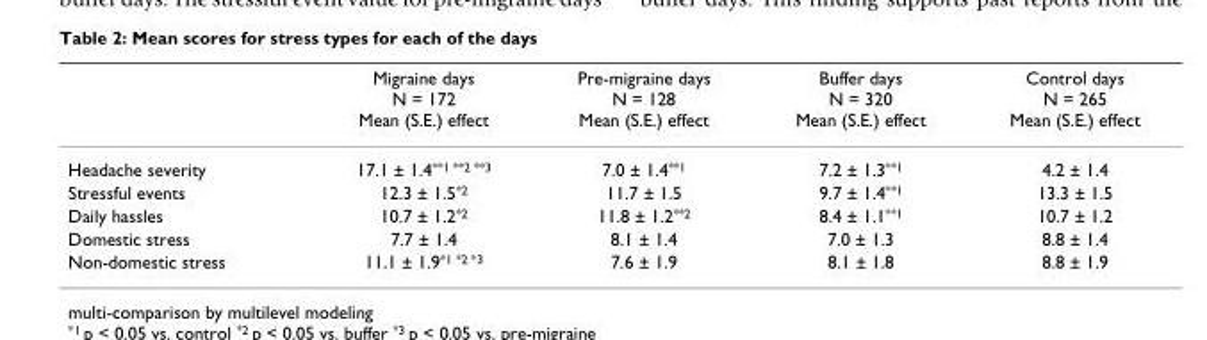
<table><thead><tr><td></td><td>Migraine days N = 172 Mean (S.E.) effect</td><td>Pre-migraine days N = 128 Mean (S.E.) effect</td><td>Buffer days N = 320 Mean (S.E.) effect</td><td>Control days N = 265 Mean (S.E.) effect</td></tr></thead><tbody><tr><td>Headache severity</td><td>17.1 ± 1.4<sup>**1 **2 **3</sup></td><td>7.0 ± 1.4<sup>**1</sup></td><td>7.2 ± 1.3<sup>**1</sup></td><td>4.2 ± 1.4</td></tr><tr><td>Stressful events</td><td>12.3 ± 1.5<sup>*2</sup></td><td>11.7 ± 1.5</td><td>9.7 ± 1.4<sup>**1</sup></td><td>13.3 ± 1.5</td></tr><tr><td>Daily hassles</td><td>10.7 ± 1.2<sup>*2</sup></td><td>11.8 ± 1.2<sup>**2</sup></td><td>8.4 ± 1.1<sup>**1</sup></td><td>10.7 ± 1.2</td></tr><tr><td>Domestic stress</td><td>7.7 ± 1.4</td><td>8.1 ± 1.4</td><td>7.0 ± 1.3</td><td>8.8 ± 1.4</td></tr><tr><td>Non-domestic stress</td><td>11.1 ± 1.9<sup>*1 *2 *3</sup></td><td>7.6 ± 1.9</td><td>8.1 ± 1.8</td><td>8.8 ± 1.9</td></tr></tbody></table>